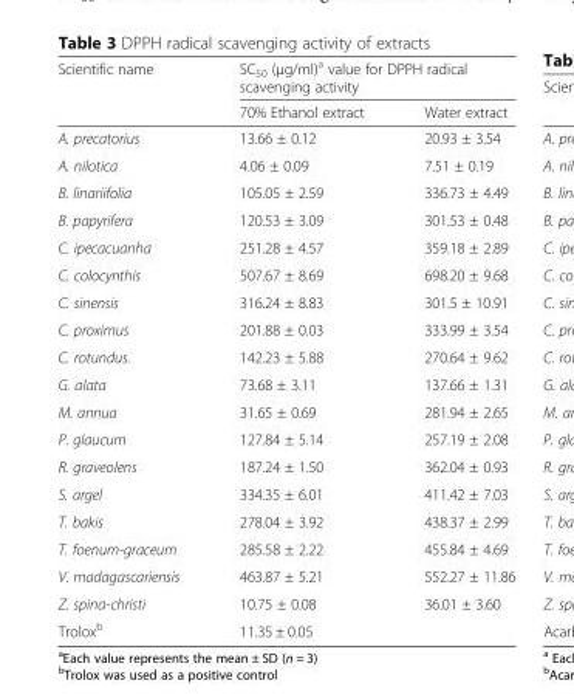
<table><thead><tr><td rowspan="2">Scientific name</td><td colspan="2">SC<sub>50</sub> (μg/ml)<sup>a</sup> value for DPPH radical scavenging activity</td></tr><tr><td>70% Ethanol extract</td><td>Water extract</td></tr></thead><tbody><tr><td>A. precatorius</td><td>13.66 ± 0.12</td><td>20.93 ± 3.54</td></tr><tr><td>A. nilotica</td><td>4.06 ± 0.09</td><td>7.51 ± 0.19</td></tr><tr><td>B. linariifolia</td><td>105.05 ± 2.59</td><td>336.73 ± 4.49</td></tr><tr><td>B. papyrifera</td><td>120.53 ± 3.09</td><td>301.53 ± 0.48</td></tr><tr><td>C. ipecacuanha</td><td>251.28 ± 4.57</td><td>359.18 ± 2.89</td></tr><tr><td>C. colocynthis</td><td>507.67 ± 8.69</td><td>698.20 ± 9.68</td></tr><tr><td>C. sinensis</td><td>316.24 ± 8.83</td><td>301.5 ± 10.91</td></tr><tr><td>C. proximus</td><td>201.88 ± 0.03</td><td>333.99 ± 3.54</td></tr><tr><td>C. rotundus.</td><td>142.23 ± 5.88</td><td>270.64 ± 9.62</td></tr><tr><td>G. alata</td><td>73.68 ± 3.11</td><td>137.66 ± 1.31</td></tr><tr><td>M. annua</td><td>31.65 ± 0.69</td><td>281.94 ± 2.65</td></tr><tr><td>P. glaucum</td><td>127.84 ± 5.14</td><td>257.19 ± 2.08</td></tr><tr><td>R. graveolens</td><td>187.24 ± 1.50</td><td>362.04 ± 0.93</td></tr><tr><td>S. argel</td><td>334.35 ± 6.01</td><td>411.42 ± 7.03</td></tr><tr><td>T. bakis</td><td>278.04 ± 3.92</td><td>438.37 ± 2.99</td></tr><tr><td>T. foenum-graceum</td><td>285.58 ± 2.22</td><td>455.84 ± 4.69</td></tr><tr><td>V. madagascariensis</td><td>463.87 ± 5.21</td><td>552.27 ± 11.86</td></tr><tr><td>Z. spina-christi</td><td>10.75 ± 0.08</td><td>36.01 ± 3.60</td></tr><tr><td>Trolox<sup>b</sup></td><td colspan="2">11.35 ± 0.05</td></tr></tbody></table>